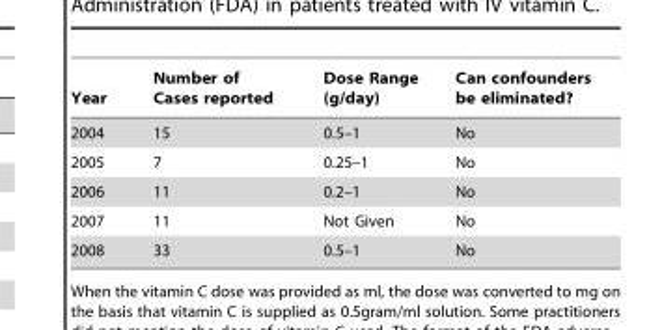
<table><thead><tr><td>Year</td><td>Number of Cases reported</td><td>Dose Range (g/day)</td><td>Can confounders be eliminated?</td></tr></thead><tbody><tr><td>2004</td><td>15</td><td>0.5–1</td><td>No</td></tr><tr><td>2005</td><td>7</td><td>0.25–1</td><td>No</td></tr><tr><td>2006</td><td>11</td><td>0.2–1</td><td>No</td></tr><tr><td>2007</td><td>11</td><td>Not Given</td><td>No</td></tr><tr><td>2008</td><td>33</td><td>0.5–1</td><td>No</td></tr></tbody></table>